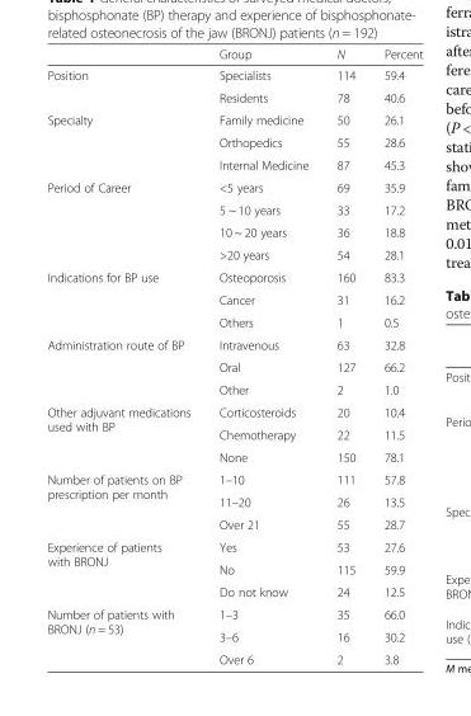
<table><thead><tr><td></td><td>Group</td><td>N</td><td>Percent</td></tr></thead><tbody><tr><td rowspan="2">Position</td><td>Specialists</td><td>114</td><td>59.4</td></tr><tr><td>Residents</td><td>78</td><td>40.6</td></tr><tr><td rowspan="3">Specialty</td><td>Family medicine</td><td>50</td><td>26.1</td></tr><tr><td>Orthopedics</td><td>55</td><td>28.6</td></tr><tr><td>Internal Medicine</td><td>87</td><td>45.3</td></tr><tr><td rowspan="4">Period of Career</td><td>&lt;5 years</td><td>69</td><td>35.9</td></tr><tr><td>5 ~ 10 years</td><td>33</td><td>17.2</td></tr><tr><td>10 ~ 20 years</td><td>36</td><td>18.8</td></tr><tr><td>&gt;20 years</td><td>54</td><td>28.1</td></tr><tr><td rowspan="3">Indications for BP use</td><td>Osteoporosis</td><td>160</td><td>83.3</td></tr><tr><td>Cancer</td><td>31</td><td>16.2</td></tr><tr><td>Others</td><td>1</td><td>0.5</td></tr><tr><td rowspan="3">Administration route of BP</td><td>Intravenous</td><td>63</td><td>32.8</td></tr><tr><td>Oral</td><td>127</td><td>66.2</td></tr><tr><td>Other</td><td>2</td><td>1.0</td></tr><tr><td rowspan="3">Other adjuvant medications used with BP</td><td>Corticosteroids</td><td>20</td><td>10.4</td></tr><tr><td>Chemotherapy</td><td>22</td><td>11.5</td></tr><tr><td>None</td><td>150</td><td>78.1</td></tr><tr><td rowspan="3">Number of patients on BP prescription per month</td><td>1–10</td><td>111</td><td>57.8</td></tr><tr><td>11–20</td><td>26</td><td>13.5</td></tr><tr><td>Over 21</td><td>55</td><td>28.7</td></tr><tr><td rowspan="3">Experience of patients with BRONJ</td><td>Yes</td><td>53</td><td>27.6</td></tr><tr><td>No</td><td>115</td><td>59.9</td></tr><tr><td>Do not know</td><td>24</td><td>12.5</td></tr><tr><td rowspan="3">Number of patients with BRONJ (n = 53)</td><td>1–3</td><td>35</td><td>66.0</td></tr><tr><td>3–6</td><td>16</td><td>30.2</td></tr><tr><td>Over 6</td><td>2</td><td>3.8</td></tr></tbody></table>